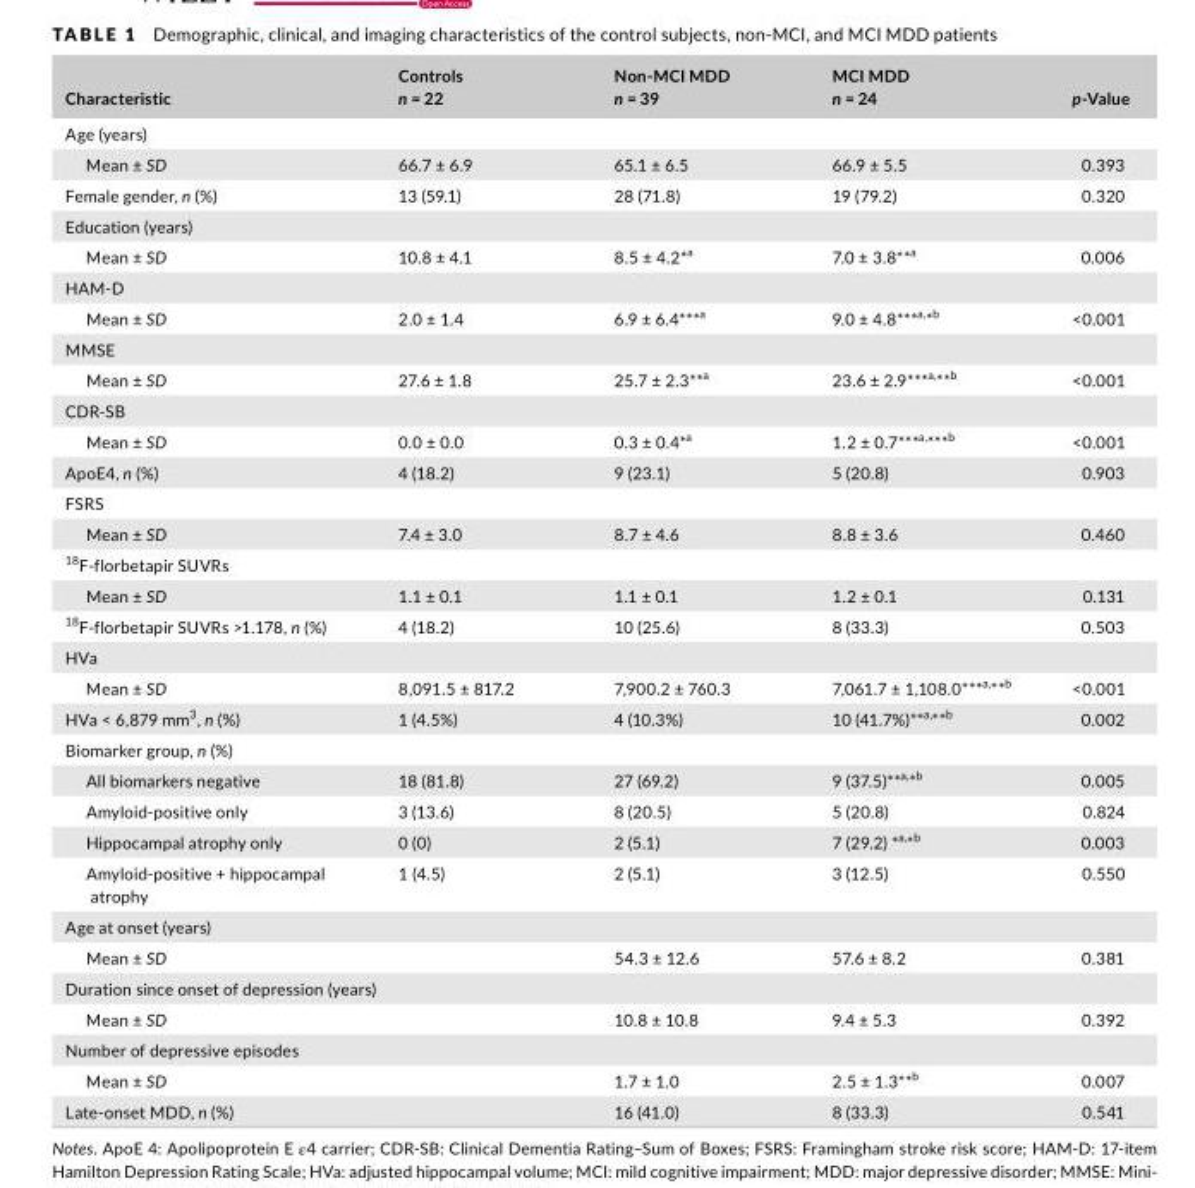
<table><thead><tr><td>Characteristic</td><td>Controls n = 22</td><td>Non- MCI MDD n = 39</td><td>MCI MDD n = 24</td><td>p- Value</td></tr></thead><tbody><tr><td colspan="5">Age (years)</td></tr><tr><td>Mean ± SD</td><td>66.7 ± 6.9</td><td>65.1 ± 6.5</td><td>66.9 ± 5.5</td><td>0.393</td></tr><tr><td>Female gender, n (%)</td><td>13 (59.1)</td><td>28 (71.8)</td><td>19 (79.2)</td><td>0.320</td></tr><tr><td colspan="5">Education (years)</td></tr><tr><td>Mean ± SD</td><td>10.8 ± 4.1</td><td>8.5 ± 4.2*a</td><td>7.0 ± 3.8**a</td><td>0.006</td></tr><tr><td colspan="5">HAM- D</td></tr><tr><td>Mean ± SD</td><td>2.0 ± 1.4</td><td>6.9 ± 6.4***a</td><td>9.0 ± 4.8***a<sup>,</sup>*b</td><td>&lt;0.001</td></tr><tr><td colspan="5">MMSE</td></tr><tr><td>Mean ± SD</td><td>27.6 ± 1.8</td><td>25.7 ± 2.3**a</td><td>23.6 ± 2.9***a<sup>,</sup>**b</td><td>&lt;0.001</td></tr><tr><td colspan="5">CDR- SB</td></tr><tr><td>Mean ± SD</td><td>0.0 ± 0.0</td><td>0.3 ± 0.4*a</td><td>1.2 ± 0.7***a<sup>,</sup>***b</td><td>&lt;0.001</td></tr><tr><td>ApoE4, n (%)</td><td>4 (18.2)</td><td>9 (23.1)</td><td>5 (20.8)</td><td>0.903</td></tr><tr><td colspan="5">FSRS</td></tr><tr><td>Mean ± SD</td><td>7.4 ± 3.0</td><td>8.7 ± 4.6</td><td>8.8 ± 3.6</td><td>0.460</td></tr><tr><td colspan="5"><sup>18</sup>F- florbetapir SUVRs</td></tr><tr><td>Mean ± SD</td><td>1.1 ± 0.1</td><td>1.1 ± 0.1</td><td>1.2 ± 0.1</td><td>0.131</td></tr><tr><td><sup>18</sup>F- florbetapir SUVRs &gt;1.178, n (%)</td><td>4 (18.2)</td><td>10 (25.6)</td><td>8 (33.3)</td><td>0.503</td></tr><tr><td colspan="5">HVa</td></tr><tr><td>Mean ± SD</td><td>8,091.5 ± 817.2</td><td>7,900.2 ± 760.3</td><td>7,061.7 ± 1,108.0***a<sup>,</sup>**b</td><td>&lt;0.001</td></tr><tr><td>HVa &lt; 6,879 mm<sup>3</sup>, n (%)</td><td>1 (4.5%)</td><td>4 (10.3%)</td><td>10 (41.7%)**a<sup>,</sup>**b</td><td>0.002</td></tr><tr><td colspan="5">Biomarker group, n (%)</td></tr><tr><td>All biomarkers negative</td><td>18 (81.8)</td><td>27 (69.2)</td><td>9 (37.5)**a<sup>,</sup>*<sup>b</sup></td><td>0.005</td></tr><tr><td>Amyloid- positive only</td><td>3 (13.6)</td><td>8 (20.5)</td><td>5 (20.8)</td><td>0.824</td></tr><tr><td>Hippocampal atrophy only</td><td>0 (0)</td><td>2 (5.1)</td><td>7 (29.2) *a<sup>,</sup>*b</td><td>0.003</td></tr><tr><td>Amyloid- positive + hippocampal atrophy</td><td>1 (4.5)</td><td>2 (5.1)</td><td>3 (12.5)</td><td>0.550</td></tr><tr><td colspan="5">Age at onset (years)</td></tr><tr><td>Mean ± SD</td><td></td><td>54.3 ± 12.6</td><td>57.6 ± 8.2</td><td>0.381</td></tr><tr><td colspan="5">Duration since onset of depression (years)</td></tr><tr><td>Mean ± SD</td><td></td><td>10.8 ± 10.8</td><td>9.4 ± 5.3</td><td>0.392</td></tr><tr><td colspan="5">Number of depressive episodes</td></tr><tr><td>Mean ± SD</td><td></td><td>1.7 ± 1.0</td><td>2.5 ± 1.3**b</td><td>0.007</td></tr><tr><td>Late- onset MDD, n (%)</td><td></td><td>16 (41.0)</td><td>8 (33.3)</td><td>0.541</td></tr></tbody></table>